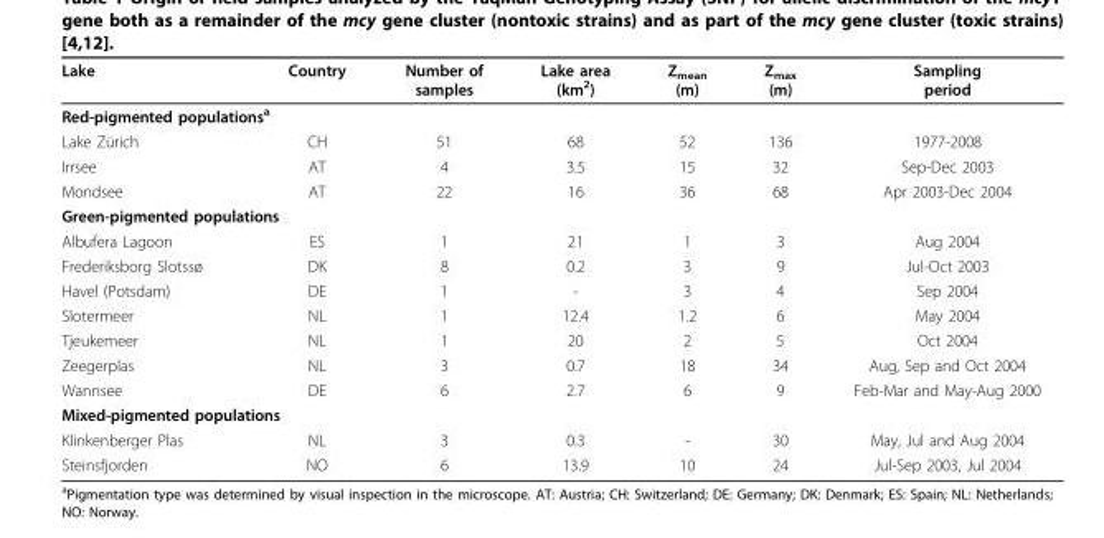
<table><thead><tr><td>Lake</td><td>Country</td><td>Number of samples</td><td>Lake area (km<sup>2</sup>)</td><td>Z<sub>mean</sub> (m)</td><td>Z<sub>max</sub> (m)</td><td>Sampling period</td></tr></thead><tbody><tr><td colspan="7">Red-pigmented populations<sup>a</sup></td></tr><tr><td>Lake Zürich</td><td>CH</td><td>51</td><td>68</td><td>52</td><td>136</td><td>1977-2008</td></tr><tr><td>Irrsee</td><td>AT</td><td>4</td><td>3.5</td><td>15</td><td>32</td><td>Sep-Dec 2003</td></tr><tr><td>Mondsee</td><td>AT</td><td>22</td><td>16</td><td>36</td><td>68</td><td>Apr 2003-Dec 2004</td></tr><tr><td colspan="7">Green-pigmented populations</td></tr><tr><td>Albufera Lagoon</td><td>ES</td><td>1</td><td>21</td><td>1</td><td>3</td><td>Aug 2004</td></tr><tr><td>Frederiksborg Slotssø</td><td>DK</td><td>8</td><td>0.2</td><td>3</td><td>9</td><td>Jul-Oct 2003</td></tr><tr><td>Havel (Potsdam)</td><td>DE</td><td>1</td><td>-</td><td>3</td><td>4</td><td>Sep 2004</td></tr><tr><td>Slotermeer</td><td>NL</td><td>1</td><td>12.4</td><td>1.2</td><td>6</td><td>May 2004</td></tr><tr><td>Tjeukemeer</td><td>NL</td><td>1</td><td>20</td><td>2</td><td>5</td><td>Oct 2004</td></tr><tr><td>Zeegerplas</td><td>NL</td><td>3</td><td>0.7</td><td>18</td><td>34</td><td>Aug, Sep and Oct 2004</td></tr><tr><td>Wannsee</td><td>DE</td><td>6</td><td>2.7</td><td>6</td><td>9</td><td>Feb-Mar and May-Aug 2000</td></tr><tr><td colspan="7">Mixed-pigmented populations</td></tr><tr><td>Klinkenberger Plas</td><td>NL</td><td>3</td><td>0.3</td><td>-</td><td>30</td><td>May, Jul and Aug 2004</td></tr><tr><td>Steinsfjorden</td><td>NO</td><td>6</td><td>13.9</td><td>10</td><td>24</td><td>Jul-Sep 2003, Jul 2004</td></tr></tbody></table>